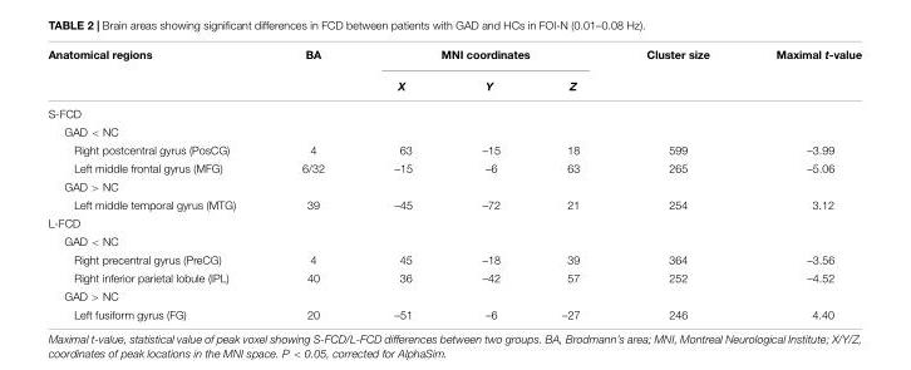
<table><thead><tr><td rowspan="2">Anatomical regions</td><td rowspan="2">BA</td><td colspan="3">MNI coordinates</td><td rowspan="2">Cluster size</td><td rowspan="2">Maximal t-value</td></tr><tr><td>X</td><td>Y</td><td>Z</td></tr></thead><tbody><tr><td colspan="7">S-FCD</td></tr><tr><td colspan="7">GAD &lt; NC</td></tr><tr><td>Right postcentral gyrus (PosCG)</td><td>4</td><td>63</td><td>–15</td><td>18</td><td>599</td><td>–3.99</td></tr><tr><td>Left middle frontal gyrus (MFG)</td><td>6/32</td><td>–15</td><td>–6</td><td>63</td><td>265</td><td>–5.06</td></tr><tr><td colspan="7">GAD &gt; NC</td></tr><tr><td>Left middle temporal gyrus (MTG)</td><td>39</td><td>–45</td><td>–72</td><td>21</td><td>254</td><td>3.12</td></tr><tr><td colspan="7">L-FCD</td></tr><tr><td colspan="7">GAD &lt; NC</td></tr><tr><td>Right precentral gyrus (PreCG)</td><td>4</td><td>45</td><td>–18</td><td>39</td><td>364</td><td>–3.56</td></tr><tr><td>Right inferior parietal lobule (IPL)</td><td>40</td><td>36</td><td>–42</td><td>57</td><td>252</td><td>–4.52</td></tr><tr><td colspan="7">GAD &gt; NC</td></tr><tr><td>Left fusiform gyrus (FG)</td><td>20</td><td>–51</td><td>–6</td><td>–27</td><td>246</td><td>4.40</td></tr></tbody></table>